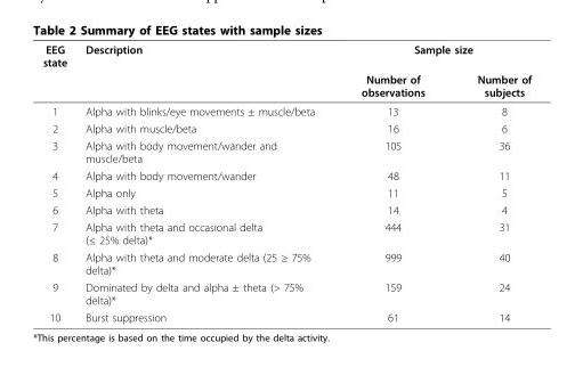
<table><thead><tr><td rowspan="2">EEG state</td><td rowspan="2">Description</td><td colspan="2">Sample size</td></tr><tr><td>Number of observations</td><td>Number of subjects</td></tr></thead><tbody><tr><td>1</td><td>Alpha with blinks/eye movements ± muscle/beta</td><td>13</td><td>8</td></tr><tr><td>2</td><td>Alpha with muscle/beta</td><td>16</td><td>6</td></tr><tr><td>3</td><td>Alpha with body movement/wander and muscle/beta</td><td>105</td><td>36</td></tr><tr><td>4</td><td>Alpha with body movement/wander</td><td>48</td><td>11</td></tr><tr><td>5</td><td>Alpha only</td><td>11</td><td>5</td></tr><tr><td>6</td><td>Alpha with theta</td><td>14</td><td>4</td></tr><tr><td>7</td><td>Alpha with theta and occasional delta (≤ 25% delta)*</td><td>444</td><td>31</td></tr><tr><td>8</td><td>Alpha with theta and moderate delta (25 ≥ 75% delta)*</td><td>999</td><td>40</td></tr><tr><td>9</td><td>Dominated by delta and alpha ± theta (&gt; 75% delta)*</td><td>159</td><td>24</td></tr><tr><td>10</td><td>Burst suppression</td><td>61</td><td>14</td></tr></tbody></table>